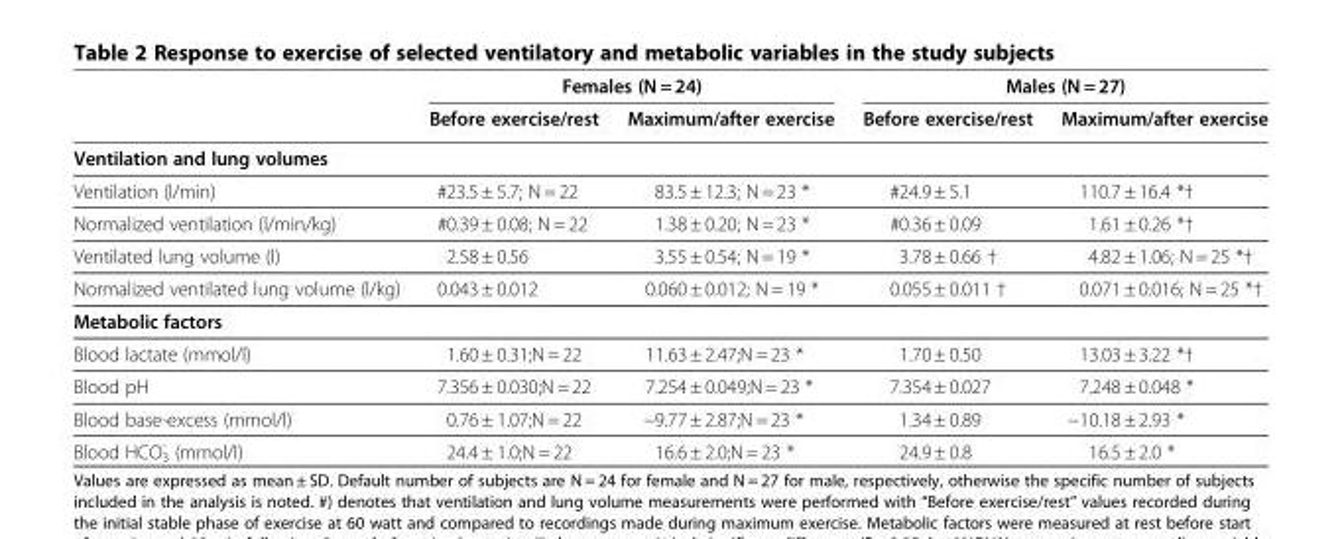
<table><thead><tr><td rowspan="2"></td><td colspan="2">Females (N = 24)</td><td colspan="2">Males (N = 27)</td></tr><tr><td>Before exercise/rest</td><td>Maximum/after exercise</td><td>Before exercise/rest</td><td>Maximum/after exercise</td></tr></thead><tbody><tr><td colspan="5">Ventilation and lung volumes</td></tr><tr><td>Ventilation (l/min)</td><td>#23.5 ± 5.7; N = 22</td><td>83.5 ± 12.3; N = 23 *</td><td>#24.9 ± 5.1</td><td>110.7 ± 16.4 *†</td></tr><tr><td>Normalized ventilation (l/min/kg)</td><td>#0.39 ± 0.08; N = 22</td><td>1.38 ± 0.20; N = 23 *</td><td>#0.36 ± 0.09</td><td>1.61 ± 0.26 *†</td></tr><tr><td>Ventilated lung volume (l)</td><td>2.58 ± 0.56</td><td>3.55 ± 0.54; N = 19 *</td><td>3.78 ± 0.66 †</td><td>4.82 ± 1.06; N = 25 *†</td></tr><tr><td>Normalized ventilated lung volume (l/kg)</td><td>0.043 ± 0.012</td><td>0.060 ± 0.012; N = 19 *</td><td>0.055 ± 0.011 †</td><td>0.071 ± 0.016; N = 25 *†</td></tr><tr><td colspan="5">Metabolic factors</td></tr><tr><td>Blood lactate (mmol/l)</td><td>1.60 ± 0.31;N = 22</td><td>11.63 ± 2.47;N = 23 *</td><td>1.70 ± 0.50</td><td>13.03 ± 3.22 *†</td></tr><tr><td>Blood pH</td><td>7.356 ± 0.030;N = 22</td><td>7.254 ± 0.049;N = 23 *</td><td>7.354 ± 0.027</td><td>7.248 ± 0.048 *</td></tr><tr><td>Blood base-excess (mmol/l)</td><td>0.76 ± 1.07;N = 22</td><td>−9.77 ± 2.87;N = 23 *</td><td>1.34 ± 0.89</td><td>−10.18 ± 2.93 *</td></tr><tr><td>Blood HCO<sub>3</sub> <sup>-</sup> (mmol/l)</td><td>24.4 ± 1.0;N = 22</td><td>16.6 ± 2.0;N = 23 *</td><td>24.9 ± 0.8</td><td>16.5 ± 2.0 *</td></tr></tbody></table>